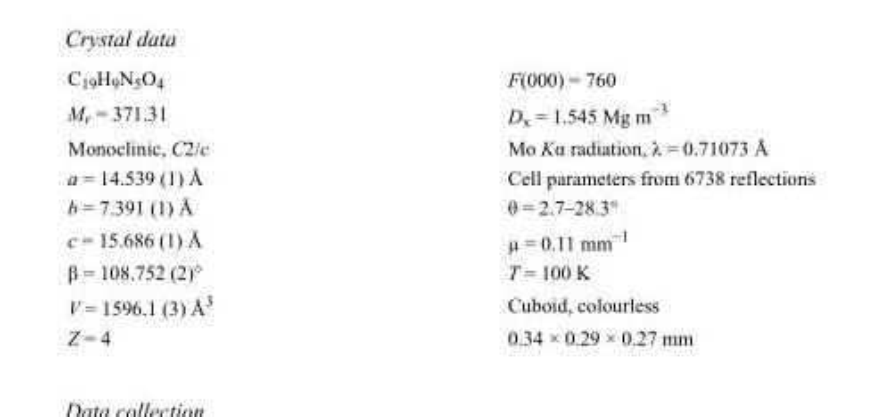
<table><tbody><tr><td>C<sub>19</sub>H<sub>9</sub>N<sub>5</sub>O<sub>4</sub></td><td>F(000) = 760</td></tr><tr><td>M<sub>r</sub> = 371.31</td><td>D<sub>x</sub> = 1.545 Mg m<sup>−3</sup></td></tr><tr><td>Monoclinic, C2/c</td><td>Mo Kα radiation, λ = 0.71073 Å</td></tr><tr><td>a = 14.539 (1) Å</td><td>Cell parameters from 6738 reflections</td></tr><tr><td>b = 7.391 (1) Å</td><td>θ = 2.7–28.3°</td></tr><tr><td>c = 15.686 (1) Å</td><td>µ = 0.11 mm<sup>−1</sup></td></tr><tr><td>β = 108.752 (2)°</td><td>T = 100 K</td></tr><tr><td>V = 1596.1 (3) Å<sup>3</sup></td><td>Cuboid, colourless</td></tr><tr><td>Z = 4</td><td>0.34 × 0.29 × 0.27 mm</td></tr></tbody></table>